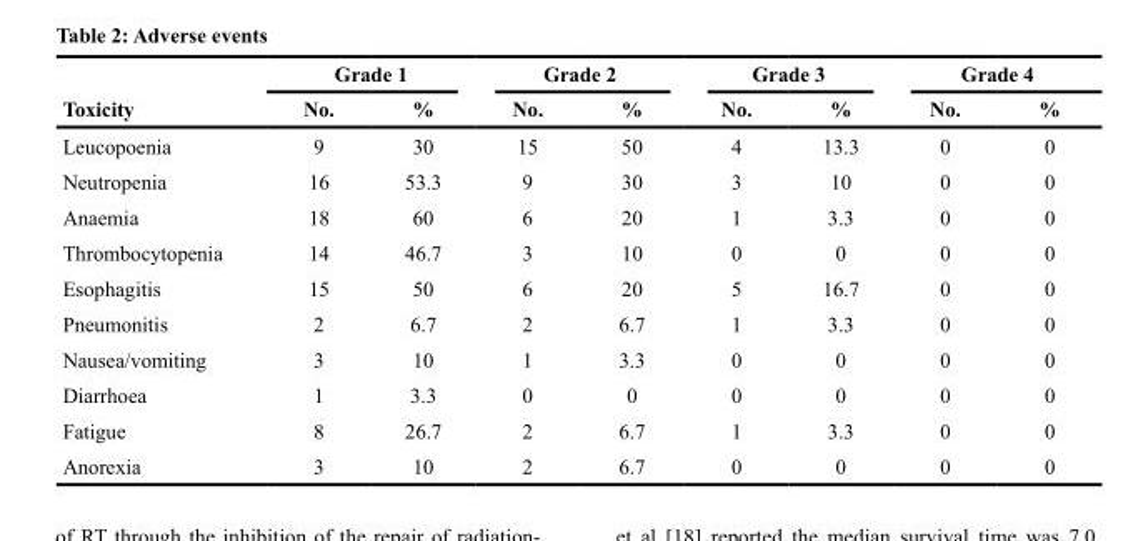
<table><thead><tr><td rowspan="2">Toxicity</td><td colspan="2">Grade 1</td><td colspan="2">Grade 2</td><td colspan="2">Grade 3</td><td colspan="2">Grade 4</td></tr><tr><td>No.</td><td>%</td><td>No.</td><td>%</td><td>No.</td><td>%</td><td>No.</td><td>%</td></tr></thead><tbody><tr><td>Leucopoenia</td><td>9</td><td>30</td><td>15</td><td>50</td><td>4</td><td>13.3</td><td>0</td><td>0</td></tr><tr><td>Neutropenia</td><td>16</td><td>53.3</td><td>9</td><td>30</td><td>3</td><td>10</td><td>0</td><td>0</td></tr><tr><td>Anaemia</td><td>18</td><td>60</td><td>6</td><td>20</td><td>1</td><td>3.3</td><td>0</td><td>0</td></tr><tr><td>Thrombocytopenia</td><td>14</td><td>46.7</td><td>3</td><td>10</td><td>0</td><td>0</td><td>0</td><td>0</td></tr><tr><td>Esophagitis</td><td>15</td><td>50</td><td>6</td><td>20</td><td>5</td><td>16.7</td><td>0</td><td>0</td></tr><tr><td>Pneumonitis</td><td>2</td><td>6.7</td><td>2</td><td>6.7</td><td>1</td><td>3.3</td><td>0</td><td>0</td></tr><tr><td>Nausea/vomiting</td><td>3</td><td>10</td><td>1</td><td>3.3</td><td>0</td><td>0</td><td>0</td><td>0</td></tr><tr><td>Diarrhoea</td><td>1</td><td>3.3</td><td>0</td><td>0</td><td>0</td><td>0</td><td>0</td><td>0</td></tr><tr><td>Fatigue</td><td>8</td><td>26.7</td><td>2</td><td>6.7</td><td>1</td><td>3.3</td><td>0</td><td>0</td></tr><tr><td>Anorexia</td><td>3</td><td>10</td><td>2</td><td>6.7</td><td>0</td><td>0</td><td>0</td><td>0</td></tr></tbody></table>